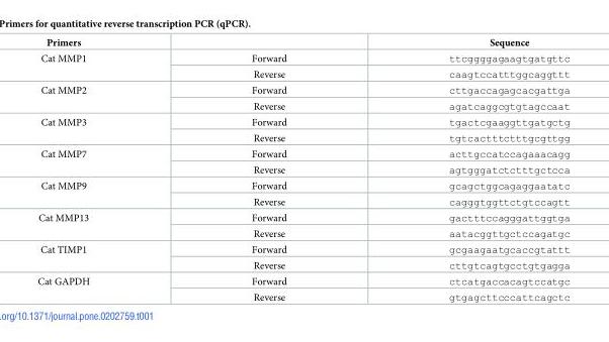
<table><thead><tr><td>Primers</td><td></td><td>Sequence</td></tr></thead><tbody><tr><td rowspan="2">Cat MMP1</td><td>Forward</td><td>ttcggggagaagtgatgttc</td></tr><tr><td>Reverse</td><td>caagtccatttggcaggttt</td></tr><tr><td rowspan="2">Cat MMP2</td><td>Forward</td><td>cttgaccagagcacgattga</td></tr><tr><td>Reverse</td><td>agatcaggcgtgtagccaat</td></tr><tr><td rowspan="2">Cat MMP3</td><td>Forward</td><td>tgactcgaaggttgatgctg</td></tr><tr><td>Reverse</td><td>tgtcactttctttgcgttgg</td></tr><tr><td rowspan="2">Cat MMP7</td><td>Forward</td><td>acttgccatccagaaacagg</td></tr><tr><td>Reverse</td><td>agtgggatctctttgctcca</td></tr><tr><td rowspan="2">Cat MMP9</td><td>Forward</td><td>gcagctggcagaggaatatc</td></tr><tr><td>Reverse</td><td>cagggtggttctgtccagtt</td></tr><tr><td rowspan="2">Cat MMP13</td><td>Forward</td><td>gactttccagggattggtga</td></tr><tr><td>Reverse</td><td>aatacggttgctccagatgc</td></tr><tr><td rowspan="2">Cat TIMP1</td><td>Forward</td><td>gcgaagaatgcaccgtattt</td></tr><tr><td>Reverse</td><td>cttgtcagtgcctgtgagga</td></tr><tr><td rowspan="2">Cat GAPDH</td><td>Forward</td><td>ctcatgaccacagtccatgc</td></tr><tr><td>Reverse</td><td>gtgagcttcccattcagctc</td></tr></tbody></table>